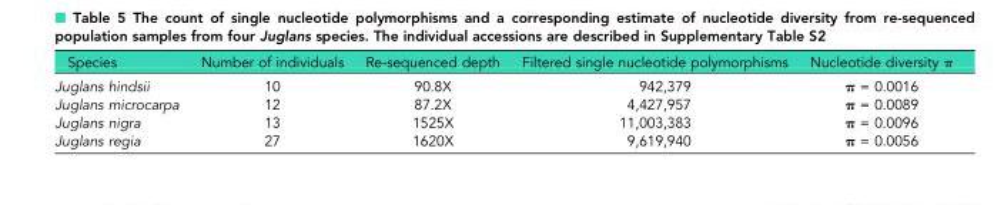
<table><thead><tr><td>Species</td><td>Number of individuals</td><td>Re-sequenced depth</td><td>Filtered single nucleotide polymorphisms</td><td>Nucleotide diversity</td></tr></thead><tbody><tr><td>Juglans hindsii</td><td>10</td><td>90.8X</td><td>942,379</td><td>π = 0.0016</td></tr><tr><td>Juglans microcarpa</td><td>12</td><td>87.2X</td><td>4,427,957</td><td>π = 0.0089</td></tr><tr><td>Juglans nigra</td><td>13</td><td>1525X</td><td>11,003,383</td><td>π = 0.0096</td></tr><tr><td>Juglans regia</td><td>27</td><td>1620X</td><td>9,619,940</td><td>π = 0.0056</td></tr></tbody></table>